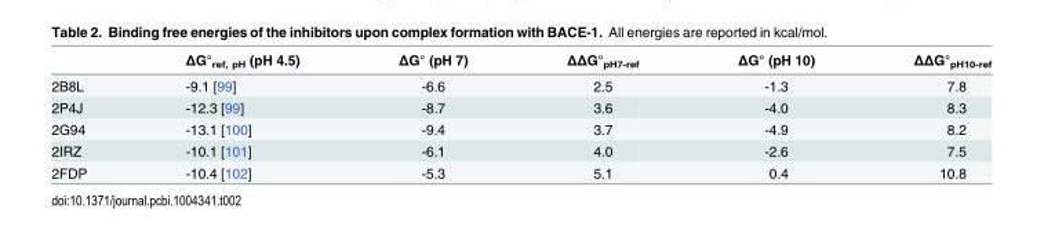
<table><thead><tr><td></td><td>ΔG°<sub>ref, pH</sub> (pH 4.5)</td><td>ΔG° (pH 7)</td><td>ΔΔG°<sub>pH7-ref</sub></td><td>ΔG° (pH 10)</td><td>ΔΔG°<sub>pH10-ref</sub></td></tr></thead><tbody><tr><td>2B8L</td><td>-9.1 [99]</td><td>-6.6</td><td>2.5</td><td>-1.3</td><td>7.8</td></tr><tr><td>2P4J</td><td>-12.3 [99]</td><td>-8.7</td><td>3.6</td><td>-4.0</td><td>8.3</td></tr><tr><td>2G94</td><td>-13.1 [100]</td><td>-9.4</td><td>3.7</td><td>-4.9</td><td>8.2</td></tr><tr><td>2IRZ</td><td>-10.1 [101]</td><td>-6.1</td><td>4.0</td><td>-2.6</td><td>7.5</td></tr><tr><td>2FDP</td><td>-10.4 [102]</td><td>-5.3</td><td>5.1</td><td>0.4</td><td>10.8</td></tr></tbody></table>